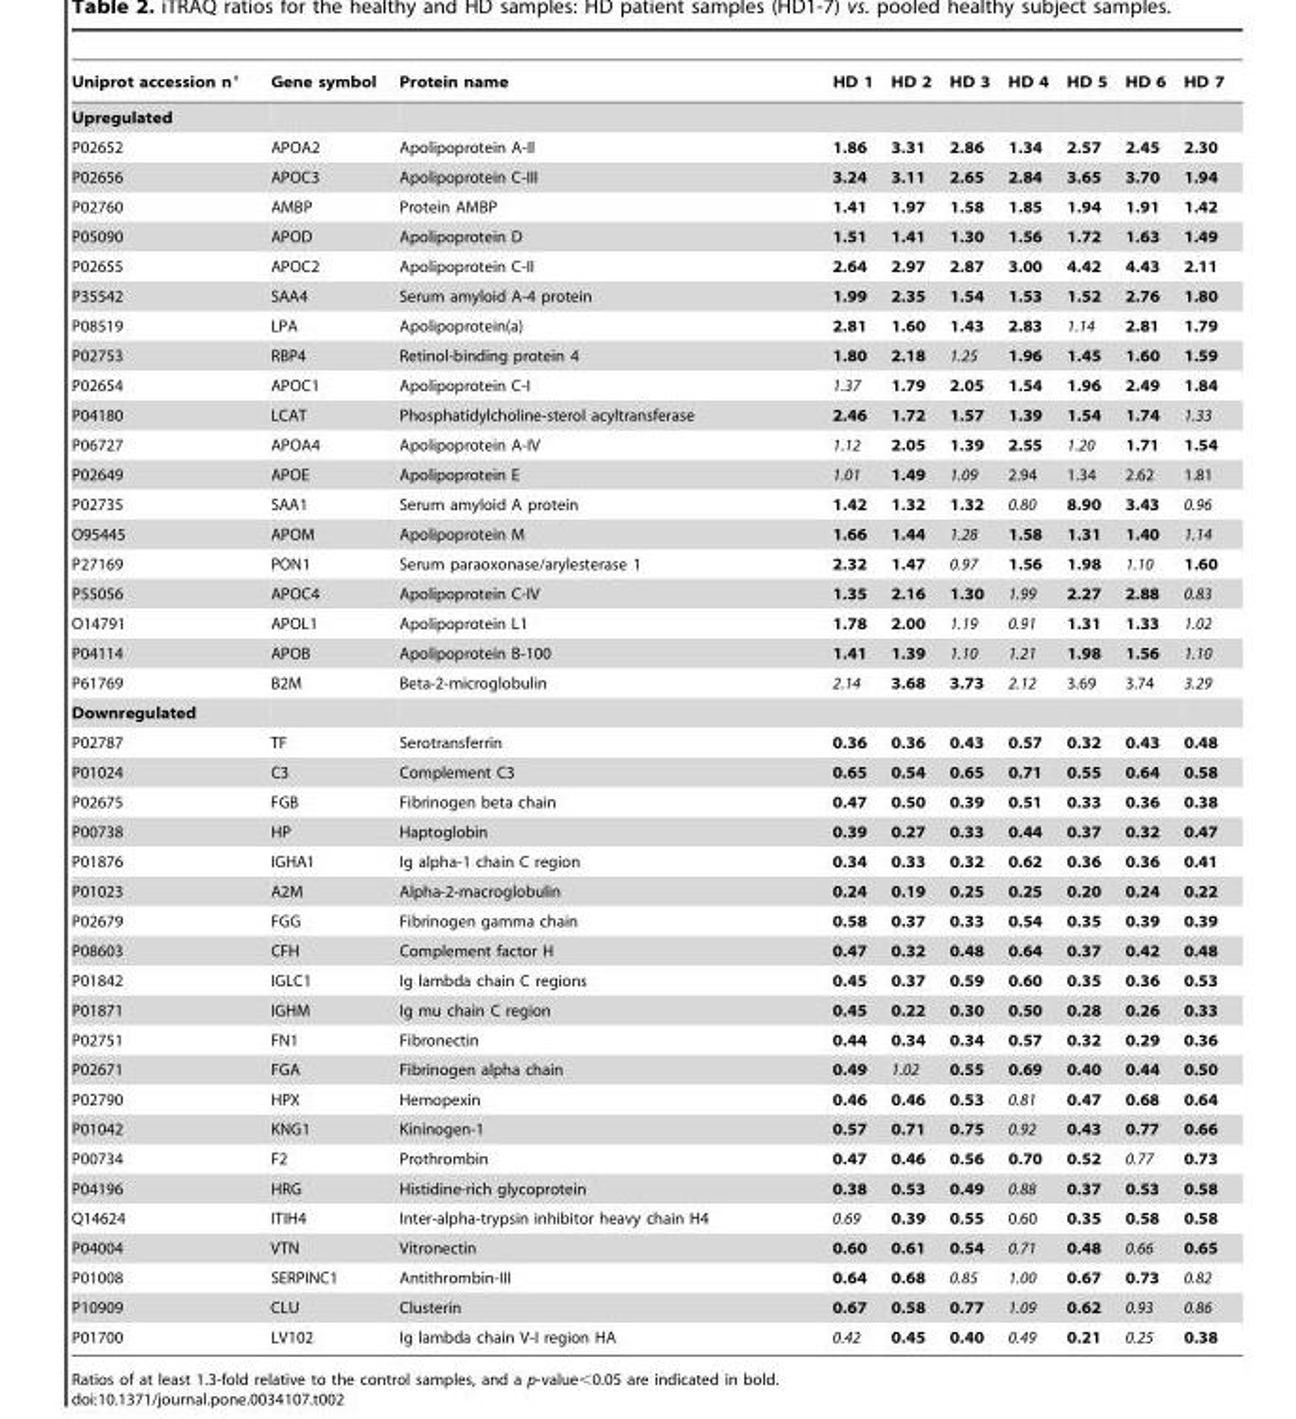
<table><thead><tr><td>Uniprot accession n°</td><td>Gene symbol</td><td>Protein name</td><td>HD 1</td><td>HD 2</td><td>HD 3</td><td>HD 4</td><td>HD 5</td><td>HD 6</td><td>HD 7</td></tr></thead><tbody><tr><td colspan="10">Upregulated</td></tr><tr><td>P02652</td><td>APOA2</td><td>Apolipoprotein A-II</td><td>1.86</td><td>3.31</td><td>2.86</td><td>1.34</td><td>2.57</td><td>2.45</td><td>2.30</td></tr><tr><td>P02656</td><td>APOC3</td><td>Apolipoprotein C-III</td><td>3.24</td><td>3.11</td><td>2.65</td><td>2.84</td><td>3.65</td><td>3.70</td><td>1.94</td></tr><tr><td>P02760</td><td>AMBP</td><td>Protein AMBP</td><td>1.41</td><td>1.97</td><td>1.58</td><td>1.85</td><td>1.94</td><td>1.91</td><td>1.42</td></tr><tr><td>P05090</td><td>APOD</td><td>Apolipoprotein D</td><td>1.51</td><td>1.41</td><td>1.30</td><td>1.56</td><td>1.72</td><td>1.63</td><td>1.49</td></tr><tr><td>P02655</td><td>APOC2</td><td>Apolipoprotein C-II</td><td>2.64</td><td>2.97</td><td>2.87</td><td>3.00</td><td>4.42</td><td>4.43</td><td>2.11</td></tr><tr><td>P35542</td><td>SAA4</td><td>Serum amyloid A-4 protein</td><td>1.99</td><td>2.35</td><td>1.54</td><td>1.53</td><td>1.52</td><td>2.76</td><td>1.80</td></tr><tr><td>P08519</td><td>LPA</td><td>Apolipoprotein(a)</td><td>2.81</td><td>1.60</td><td>1.43</td><td>2.83</td><td>1.14</td><td>2.81</td><td>1.79</td></tr><tr><td>P02753</td><td>RBP4</td><td>Retinol-binding protein 4</td><td>1.80</td><td>2.18</td><td>1.25</td><td>1.96</td><td>1.45</td><td>1.60</td><td>1.59</td></tr><tr><td>P02654</td><td>APOC1</td><td>Apolipoprotein C-I</td><td>1.37</td><td>1.79</td><td>2.05</td><td>1.54</td><td>1.96</td><td>2.49</td><td>1.84</td></tr><tr><td>P04180</td><td>LCAT</td><td>Phosphatidylcholine-sterol acyltransferase</td><td>2.46</td><td>1.72</td><td>1.57</td><td>1.39</td><td>1.54</td><td>1.74</td><td>1.33</td></tr><tr><td>P06727</td><td>APOA4</td><td>Apolipoprotein A-IV</td><td>1.12</td><td>2.05</td><td>1.39</td><td>2.55</td><td>1.20</td><td>1.71</td><td>1.54</td></tr><tr><td>P02649</td><td>APOE</td><td>Apolipoprotein E</td><td>1.01</td><td>1.49</td><td>1.09</td><td>2.94</td><td>1.34</td><td>2.62</td><td>1.81</td></tr><tr><td>P02735</td><td>SAA1</td><td>Serum amyloid A protein</td><td>1.42</td><td>1.32</td><td>1.32</td><td>0.80</td><td>8.90</td><td>3.43</td><td>0.96</td></tr><tr><td>O95445</td><td>APOM</td><td>Apolipoprotein M</td><td>1.66</td><td>1.44</td><td>1.28</td><td>1.58</td><td>1.31</td><td>1.40</td><td>1.14</td></tr><tr><td>P27169</td><td>PON1</td><td>Serum paraoxonase/arylesterase 1</td><td>2.32</td><td>1.47</td><td>0.97</td><td>1.56</td><td>1.98</td><td>1.10</td><td>1.60</td></tr><tr><td>P55056</td><td>APOC4</td><td>Apolipoprotein C-IV</td><td>1.35</td><td>2.16</td><td>1.30</td><td>1.99</td><td>2.27</td><td>2.88</td><td>0.83</td></tr><tr><td>O14791</td><td>APOL1</td><td>Apolipoprotein L1</td><td>1.78</td><td>2.00</td><td>1.19</td><td>0.91</td><td>1.31</td><td>1.33</td><td>1.02</td></tr><tr><td>P04114</td><td>APOB</td><td>Apolipoprotein B-100</td><td>1.41</td><td>1.39</td><td>1.10</td><td>1.21</td><td>1.98</td><td>1.56</td><td>1.10</td></tr><tr><td>P61769</td><td>B2M</td><td>Beta-2-microglobulin</td><td>2.14</td><td>3.68</td><td>3.73</td><td>2.12</td><td>3.69</td><td>3.74</td><td>3.29</td></tr><tr><td colspan="10">Downregulated</td></tr><tr><td>P02787</td><td>TF</td><td>Serotransferrin</td><td>0.36</td><td>0.36</td><td>0.43</td><td>0.57</td><td>0.32</td><td>0.43</td><td>0.48</td></tr><tr><td>P01024</td><td>C3</td><td>Complement C3</td><td>0.65</td><td>0.54</td><td>0.65</td><td>0.71</td><td>0.55</td><td>0.64</td><td>0.58</td></tr><tr><td>P02675</td><td>FGB</td><td>Fibrinogen beta chain</td><td>0.47</td><td>0.50</td><td>0.39</td><td>0.51</td><td>0.33</td><td>0.36</td><td>0.38</td></tr><tr><td>P00738</td><td>HP</td><td>Haptoglobin</td><td>0.39</td><td>0.27</td><td>0.33</td><td>0.44</td><td>0.37</td><td>0.32</td><td>0.47</td></tr><tr><td>P01876</td><td>IGHA1</td><td>Ig alpha-1 chain C region</td><td>0.34</td><td>0.33</td><td>0.32</td><td>0.62</td><td>0.36</td><td>0.36</td><td>0.41</td></tr><tr><td>P01023</td><td>A2M</td><td>Alpha-2-macroglobulin</td><td>0.24</td><td>0.19</td><td>0.25</td><td>0.25</td><td>0.20</td><td>0.24</td><td>0.22</td></tr><tr><td>P02679</td><td>FGG</td><td>Fibrinogen gamma chain</td><td>0.58</td><td>0.37</td><td>0.33</td><td>0.54</td><td>0.35</td><td>0.39</td><td>0.39</td></tr><tr><td>P08603</td><td>CFH</td><td>Complement factor H</td><td>0.47</td><td>0.32</td><td>0.48</td><td>0.64</td><td>0.37</td><td>0.42</td><td>0.48</td></tr><tr><td>P01842</td><td>IGLC1</td><td>Ig lambda chain C regions</td><td>0.45</td><td>0.37</td><td>0.59</td><td>0.60</td><td>0.35</td><td>0.36</td><td>0.53</td></tr><tr><td>P01871</td><td>IGHM</td><td>Ig mu chain C region</td><td>0.45</td><td>0.22</td><td>0.30</td><td>0.50</td><td>0.28</td><td>0.26</td><td>0.33</td></tr><tr><td>P02751</td><td>FN1</td><td>Fibronectin</td><td>0.44</td><td>0.34</td><td>0.34</td><td>0.57</td><td>0.32</td><td>0.29</td><td>0.36</td></tr><tr><td>P02671</td><td>FGA</td><td>Fibrinogen alpha chain</td><td>0.49</td><td>1.02</td><td>0.55</td><td>0.69</td><td>0.40</td><td>0.44</td><td>0.50</td></tr><tr><td>P02790</td><td>HPX</td><td>Hemopexin</td><td>0.46</td><td>0.46</td><td>0.53</td><td>0.81</td><td>0.47</td><td>0.68</td><td>0.64</td></tr><tr><td>P01042</td><td>KNG1</td><td>Kininogen-1</td><td>0.57</td><td>0.71</td><td>0.75</td><td>0.92</td><td>0.43</td><td>0.77</td><td>0.66</td></tr><tr><td>P00734</td><td>F2</td><td>Prothrombin</td><td>0.47</td><td>0.46</td><td>0.56</td><td>0.70</td><td>0.52</td><td>0.77</td><td>0.73</td></tr><tr><td>P04196</td><td>HRG</td><td>Histidine-rich glycoprotein</td><td>0.38</td><td>0.53</td><td>0.49</td><td>0.88</td><td>0.37</td><td>0.53</td><td>0.58</td></tr><tr><td>Q14624</td><td>ITIH4</td><td>Inter-alpha-trypsin inhibitor heavy chain H4</td><td>0.69</td><td>0.39</td><td>0.55</td><td>0.60</td><td>0.35</td><td>0.58</td><td>0.58</td></tr><tr><td>P04004</td><td>VTN</td><td>Vitronectin</td><td>0.60</td><td>0.61</td><td>0.54</td><td>0.71</td><td>0.48</td><td>0.66</td><td>0.65</td></tr><tr><td>P01008</td><td>SERPINC1</td><td>Antithrombin-III</td><td>0.64</td><td>0.68</td><td>0.85</td><td>1.00</td><td>0.67</td><td>0.73</td><td>0.82</td></tr><tr><td>P10909</td><td>CLU</td><td>Clusterin</td><td>0.67</td><td>0.58</td><td>0.77</td><td>1.09</td><td>0.62</td><td>0.93</td><td>0.86</td></tr><tr><td>P01700</td><td>LV102</td><td>Ig lambda chain V-I region HA</td><td>0.42</td><td>0.45</td><td>0.40</td><td>0.49</td><td>0.21</td><td>0.25</td><td>0.38</td></tr></tbody></table>